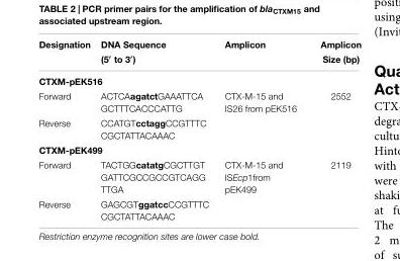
<table><thead><tr><td rowspan="2">Designation</td><td rowspan="2">DNA Sequence (5′ to 3′)</td><td rowspan="2">Amplicon</td><td rowspan="2">Amplicon Size (bp)</td></tr><tr></tr></thead><tbody><tr><td colspan="4">CTXM-pEK516</td></tr><tr><td>Forward</td><td>ACTCAagatctGAAATTCA GCTTTCACCCATTG</td><td>CTX-M-15 and IS26 from pEK516</td><td>2552</td></tr><tr><td>Reverse</td><td>CCATGTcctaggCCGTTTC CGCTATTACAAAC</td><td></td><td></td></tr><tr><td colspan="4">CTXM-pEK499</td></tr><tr><td>Forward</td><td>TACTGGcatatgCGCTTGT GATTCGCCGCCGTCAGG TTGA</td><td>CTX-M-15 and ISEcp1from pEK499</td><td>2119</td></tr><tr><td>Reverse</td><td>GAGCGTggatccCCGTTTC CGCTATTACAAAC</td><td></td><td></td></tr></tbody></table>